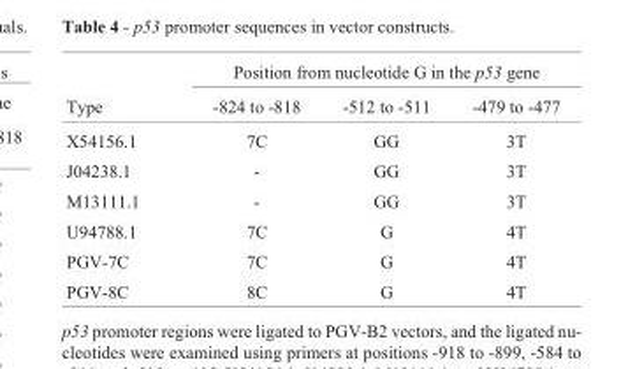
<table><thead><tr><td rowspan="2">Type</td><td colspan="3">Position from nucleotide G in the p53 gene</td></tr><tr><td>-824 to -818</td><td>-512 to -511</td><td>-479 to -477</td></tr></thead><tbody><tr><td>X54156.1</td><td>7C</td><td>GG</td><td>3T</td></tr><tr><td>J04238.1</td><td>-</td><td>GG</td><td>3T</td></tr><tr><td>M13111.1</td><td>-</td><td>GG</td><td>3T</td></tr><tr><td>U94788.1</td><td>7C</td><td>G</td><td>4T</td></tr><tr><td>PGV-7C</td><td>7C</td><td>G</td><td>4T</td></tr><tr><td>PGV-8C</td><td>8C</td><td>G</td><td>4T</td></tr></tbody></table>